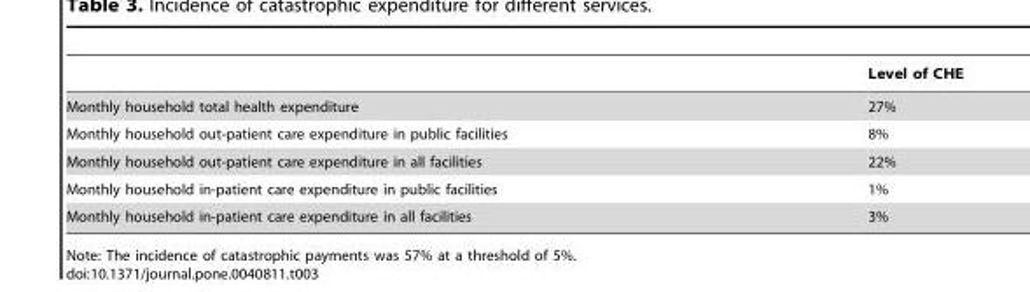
<table><thead><tr><td></td><td>Level of CHE</td></tr></thead><tbody><tr><td>Monthly household total health expenditure</td><td>27%</td></tr><tr><td>Monthly household out-patient care expenditure in public facilities</td><td>8%</td></tr><tr><td>Monthly household out-patient care expenditure in all facilities</td><td>22%</td></tr><tr><td>Monthly household in-patient care expenditure in public facilities</td><td>1%</td></tr><tr><td>Monthly household in-patient care expenditure in all facilities</td><td>3%</td></tr></tbody></table>